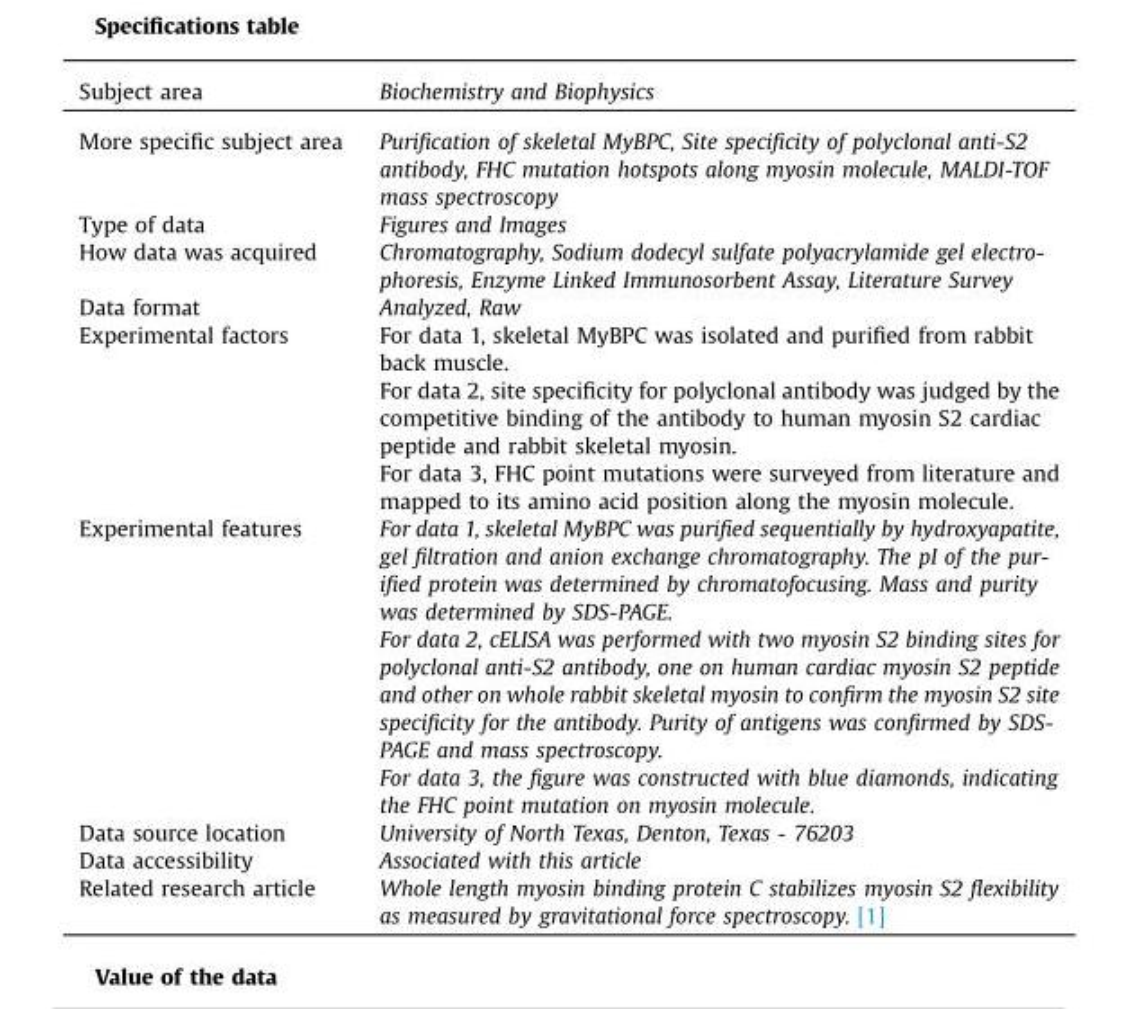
<table><thead><tr><td>Subject area</td><td>Biochemistry and Biophysics</td></tr></thead><tbody><tr><td>More specific subject area</td><td>Purification of skeletal MyBPC, Site specificity of polyclonal anti-S2 antibody, FHC mutation hotspots along myosin molecule, MALDI-TOF mass spectroscopy</td></tr><tr><td>Type of data</td><td>Figures and Images</td></tr><tr><td>How data was acquired</td><td>Chromatography, Sodium dodecyl sulfate polyacrylamide gel electro- phoresis, Enzyme Linked Immunosorbent Assay, Literature Survey</td></tr><tr><td>Data format</td><td>Analyzed, Raw</td></tr><tr><td rowspan="3">Experimental factors</td><td>For data 1, skeletal MyBPC was isolated and purified from rabbit back muscle.</td></tr><tr><td>For data 2, site specificity for polyclonal antibody was judged by the competitive binding of the antibody to human myosin S2 cardiac peptide and rabbit skeletal myosin.</td></tr><tr><td>For data 3, FHC point mutations were surveyed from literature and mapped to its amino acid position along the myosin molecule.</td></tr><tr><td rowspan="3">Experimental features</td><td>For data 1, skeletal MyBPC was purified sequentially by hydroxyapatite, gel filtration and anion exchange chromatography. The pI of the pur- ified protein was determined by chromatofocusing. Mass and purity was determined by SDS-PAGE.</td></tr><tr><td>For data 2, cELISA was performed with two myosin S2 binding sites for polyclonal anti-S2 antibody, one on human cardiac myosin S2 peptide and other on whole rabbit skeletal myosin to confirm the myosin S2 site specificity for the antibody. Purity of antigens was confirmed by SDS- PAGE and mass spectroscopy.</td></tr><tr><td>For data 3, the figure was constructed with blue diamonds, indicating the FHC point mutation on myosin molecule.</td></tr><tr><td>Data source location</td><td>University of North Texas, Denton, Texas - 76203</td></tr><tr><td>Data accessibility</td><td>Associated with this article</td></tr><tr><td>Related research article</td><td>Whole length myosin binding protein C stabilizes myosin S2 flexibility as measured by gravitational force spectroscopy. [1]</td></tr></tbody></table>